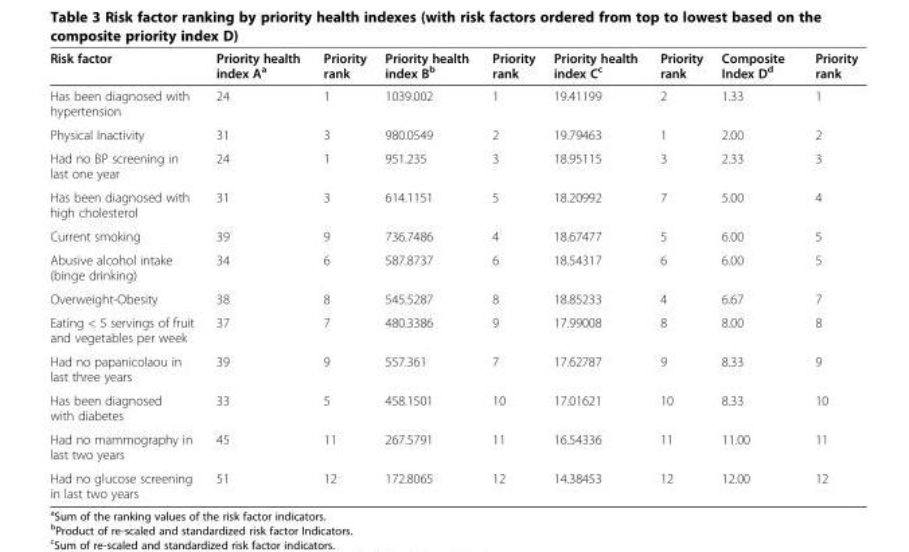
<table><thead><tr><td>Risk factor</td><td>Priority health index A<sup>a</sup></td><td>Priority rank</td><td>Priority health index B<sup>b</sup></td><td>Priority rank</td><td>Priority health index C<sup>c</sup></td><td>Priority rank</td><td>Composite Index D<sup>d</sup></td><td>Priority rank</td></tr></thead><tbody><tr><td>Has been diagnosed with hypertension</td><td>24</td><td>1</td><td>1039.002</td><td>1</td><td>19.41199</td><td>2</td><td>1.33</td><td>1</td></tr><tr><td>Physical Inactivity</td><td>31</td><td>3</td><td>980.0549</td><td>2</td><td>19.79463</td><td>1</td><td>2.00</td><td>2</td></tr><tr><td>Had no BP screening in last one year</td><td>24</td><td>1</td><td>951.235</td><td>3</td><td>18.95115</td><td>3</td><td>2.33</td><td>3</td></tr><tr><td>Has been diagnosed with high cholesterol</td><td>31</td><td>3</td><td>614.1151</td><td>5</td><td>18.20992</td><td>7</td><td>5.00</td><td>4</td></tr><tr><td>Current smoking</td><td>39</td><td>9</td><td>736.7486</td><td>4</td><td>18.67477</td><td>5</td><td>6.00</td><td>5</td></tr><tr><td>Abusive alcohol intake (binge drinking)</td><td>34</td><td>6</td><td>587.8737</td><td>6</td><td>18.54317</td><td>6</td><td>6.00</td><td>5</td></tr><tr><td>Overweight-Obesity</td><td>38</td><td>8</td><td>545.5287</td><td>8</td><td>18.85233</td><td>4</td><td>6.67</td><td>7</td></tr><tr><td>Eating &lt; 5 servings of fruit and vegetables per week</td><td>37</td><td>7</td><td>480.3386</td><td>9</td><td>17.99008</td><td>8</td><td>8.00</td><td>8</td></tr><tr><td>Had no papanicolaou in last three years</td><td>39</td><td>9</td><td>557.361</td><td>7</td><td>17.62787</td><td>9</td><td>8.33</td><td>9</td></tr><tr><td>Has been diagnosed with diabetes</td><td>33</td><td>5</td><td>458.1501</td><td>10</td><td>17.01621</td><td>10</td><td>8.33</td><td>10</td></tr><tr><td>Had no mammography in last two years</td><td>45</td><td>11</td><td>267.5791</td><td>11</td><td>16.54336</td><td>11</td><td>11.00</td><td>11</td></tr><tr><td>Had no glucose screening in last two years</td><td>51</td><td>12</td><td>172.8065</td><td>12</td><td>14.38453</td><td>12</td><td>12.00</td><td>12</td></tr></tbody></table>